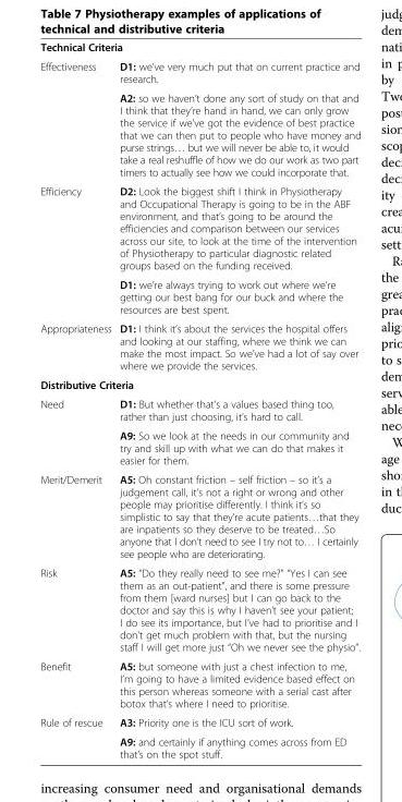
<table><tbody><tr><td colspan="2">Technical Criteria</td></tr><tr><td rowspan="2">Effectiveness</td><td>D1: we’ve very much put that on current practice and research.</td></tr><tr><td>A2: so we haven’t done any sort of study on that and I think that they’re hand in hand, we can only grow the service if we’ve got the evidence of best practice that we can then put to people who have money and purse strings… but we will never be able to, it would take a real reshuffle of how we do our work as two part timers to actually see how we could incorporate that.</td></tr><tr><td rowspan="2">Efficiency</td><td>D2: Look the biggest shift I think in Physiotherapy and Occupational Therapy is going to be in the ABF environment, and that’s going to be around the efficiencies and comparison between our services across our site, to look at the time of the intervention of Physiotherapy to particular diagnostic related groups based on the funding received.</td></tr><tr><td>D1: we’re always trying to work out where we’re getting our best bang for our buck and where the resources are best spent.</td></tr><tr><td>Appropriateness</td><td>D1: I think it’s about the services the hospital offers and looking at our staffing, where we think we can make the most impact. So we’ve had a lot of say over where we provide the services.</td></tr><tr><td colspan="2">Distributive Criteria</td></tr><tr><td rowspan="2">Need</td><td>D1: But whether that’s a values based thing too, rather than just choosing, it’s hard to call.</td></tr><tr><td>A9: So we look at the needs in our community and try and skill up with what we can do that makes it easier for them.</td></tr><tr><td>Merit/Demerit</td><td>A5: Oh constant friction – self friction – so it’s a judgement call, it’s not a right or wrong and other people may prioritise differently. I think it’s so simplistic to say that they’re acute patients…that they are inpatients so they deserve to be treated…So anyone that I don’t need to see I try not to… I certainly see people who are deteriorating.</td></tr><tr><td>Risk</td><td>A5: “Do they really need to see me?” “Yes I can see them as an out-patient”, and there is some pressure from them [ward nurses] but I can go back to the doctor and say this is why I haven’t see your patient; I do see its importance, but I’ve had to prioritise and I don’t get much problem with that, but the nursing staff I will get more just “Oh we never see the physio”.</td></tr><tr><td>Benefit</td><td>A5: but someone with just a chest infection to me, I’m going to have a limited evidence based effect on this person whereas someone with a serial cast after botox that’s where I need to prioritise.</td></tr><tr><td rowspan="2">Rule of rescue</td><td>A3: Priority one is the ICU sort of work.</td></tr><tr><td>A9: and certainly if anything comes across from ED that’s on the spot stuff.</td></tr></tbody></table>